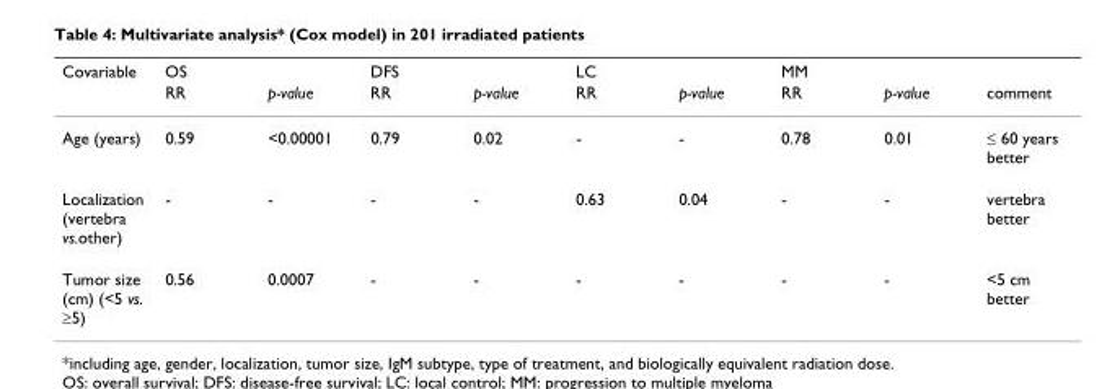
<table><thead><tr><td rowspan="2">Covariable</td><td rowspan="2">OS RR</td><td rowspan="2">p-value</td><td rowspan="2">DFS RR</td><td rowspan="2">p-value</td><td rowspan="2">LC RR</td><td rowspan="2">p-value</td><td rowspan="2">MM RR</td><td rowspan="2">p-value</td><td rowspan="2">comment</td></tr><tr></tr></thead><tbody><tr><td>Age (years)</td><td>0.59</td><td>&lt;0.00001</td><td>0.79</td><td>0.02</td><td>-</td><td>-</td><td>0.78</td><td>0.01</td><td>≤ 60 years better</td></tr><tr><td>Localization (vertebra vs.other)</td><td>-</td><td>-</td><td>-</td><td>-</td><td>0.63</td><td>0.04</td><td>-</td><td>-</td><td>vertebra better</td></tr><tr><td>Tumor size (cm) (&lt;5 vs. ≥5)</td><td>0.56</td><td>0.0007</td><td>-</td><td>-</td><td>-</td><td>-</td><td>-</td><td>-</td><td>&lt;5 cm better</td></tr></tbody></table>